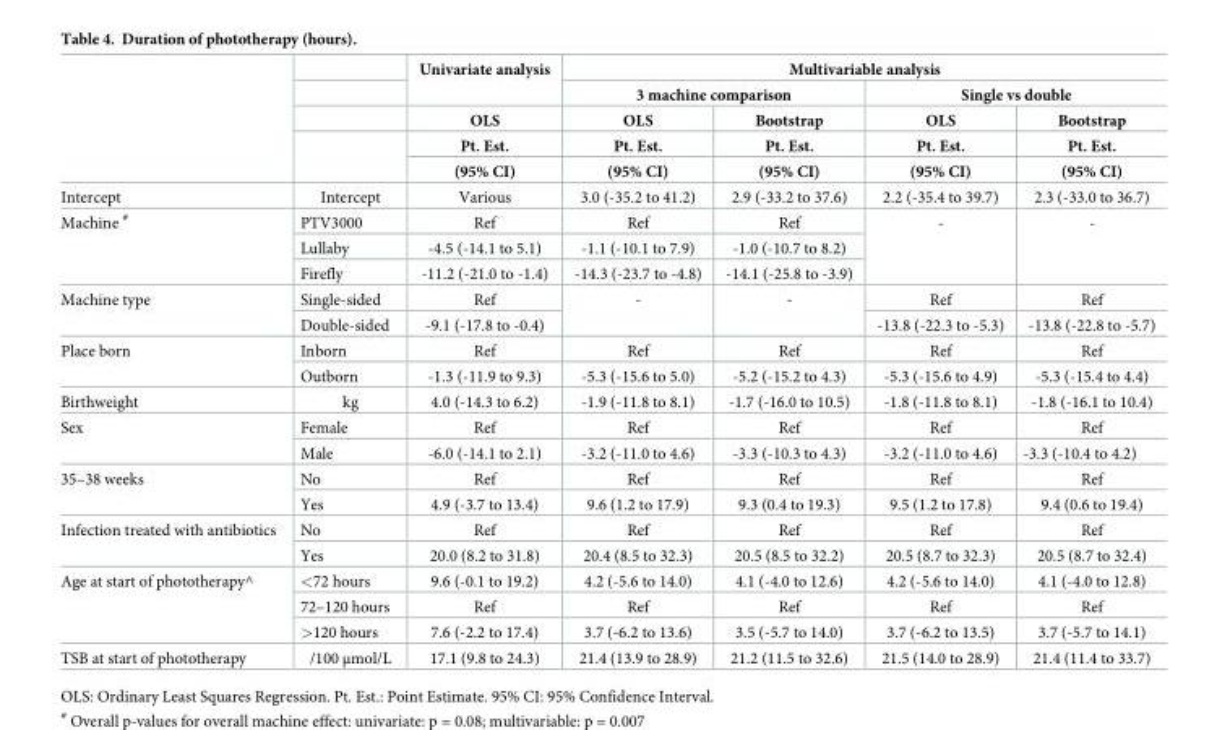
<table><thead><tr><td rowspan="5"></td><td rowspan="5"></td><td rowspan="5">Univariate analysis OLS Pt. Est. (95% CI)</td><td colspan="4">Multivariable analysis</td></tr><tr><td colspan="2">3 machine comparison</td><td colspan="2">Single vs double</td></tr><tr><td rowspan="3">OLS Pt. Est. (95% CI)</td><td rowspan="3">Bootstrap Pt. Est. (95% CI)</td><td rowspan="3">OLS Pt. Est. (95% CI)</td><td rowspan="3">Bootstrap Pt. Est. (95% CI)</td></tr><tr></tr><tr></tr></thead><tbody><tr><td>Intercept</td><td>Intercept</td><td>Various</td><td>3.0 (-35.2 to 41.2)</td><td>2.9 (-33.2 to 37.6)</td><td>2.2 (-35.4 to 39.7)</td><td>2.3 (-33.0 to 36.7)</td></tr><tr><td rowspan="3">Machine <sup>#</sup></td><td>PTV3000</td><td>Ref</td><td>Ref</td><td>Ref</td><td rowspan="3">-</td><td rowspan="3">-</td></tr><tr><td>Lullaby</td><td>-4.5 (-14.1 to 5.1)</td><td>-1.1 (-10.1 to 7.9)</td><td>-1.0 (-10.7 to 8.2)</td></tr><tr><td>Firefly</td><td>-11.2 (-21.0 to -1.4)</td><td>-14.3 (-23.7 to -4.8)</td><td>-14.1 (-25.8 to -3.9)</td></tr><tr><td rowspan="2">Machine type</td><td>Single-sided</td><td>Ref</td><td rowspan="2">-</td><td rowspan="2">-</td><td>Ref</td><td>Ref</td></tr><tr><td>Double-sided</td><td>-9.1 (-17.8 to -0.4)</td><td>-13.8 (-22.3 to -5.3)</td><td>-13.8 (-22.8 to -5.7)</td></tr><tr><td rowspan="2">Place born</td><td>Inborn</td><td>Ref</td><td>Ref</td><td>Ref</td><td>Ref</td><td>Ref</td></tr><tr><td>Outborn</td><td>-1.3 (-11.9 to 9.3)</td><td>-5.3 (-15.6 to 5.0)</td><td>-5.2 (-15.2 to 4.3)</td><td>-5.3 (-15.6 to 4.9)</td><td>-5.3 (-15.4 to 4.4)</td></tr><tr><td>Birthweight</td><td>kg</td><td>4.0 (-14.3 to 6.2)</td><td>-1.9 (-11.8 to 8.1)</td><td>-1.7 (-16.0 to 10.5)</td><td>-1.8 (-11.8 to 8.1)</td><td>-1.8 (-16.1 to 10.4)</td></tr><tr><td rowspan="2">Sex</td><td>Female</td><td>Ref</td><td>Ref</td><td>Ref</td><td>Ref</td><td>Ref</td></tr><tr><td>Male</td><td>-6.0 (-14.1 to 2.1)</td><td>-3.2 (-11.0 to 4.6)</td><td>-3.3 (-10.3 to 4.3)</td><td>-3.2 (-11.0 to 4.6)</td><td>-3.3 (-10.4 to 4.2)</td></tr><tr><td rowspan="2">35–38 weeks</td><td>No</td><td>Ref</td><td>Ref</td><td>Ref</td><td>Ref</td><td>Ref</td></tr><tr><td>Yes</td><td>4.9 (-3.7 to 13.4)</td><td>9.6 (1.2 to 17.9)</td><td>9.3 (0.4 to 19.3)</td><td>9.5 (1.2 to 17.8)</td><td>9.4 (0.6 to 19.4)</td></tr><tr><td rowspan="2">Infection treated with antibiotics</td><td>No</td><td>Ref</td><td>Ref</td><td>Ref</td><td>Ref</td><td>Ref</td></tr><tr><td>Yes</td><td>20.0 (8.2 to 31.8)</td><td>20.4 (8.5 to 32.3)</td><td>20.5 (8.5 to 32.2)</td><td>20.5 (8.7 to 32.3)</td><td>20.5 (8.7 to 32.4)</td></tr><tr><td rowspan="3">Age at start of phototherapy^</td><td>&lt;72 hours</td><td>9.6 (-0.1 to 19.2)</td><td>4.2 (-5.6 to 14.0)</td><td>4.1 (-4.0 to 12.6)</td><td>4.2 (-5.6 to 14.0)</td><td>4.1 (-4.0 to 12.8)</td></tr><tr><td>72–120 hours</td><td>Ref</td><td>Ref</td><td>Ref</td><td>Ref</td><td>Ref</td></tr><tr><td>&gt;120 hours</td><td>7.6 (-2.2 to 17.4)</td><td>3.7 (-6.2 to 13.6)</td><td>3.5 (-5.7 to 14.0)</td><td>3.7 (-6.2 to 13.5)</td><td>3.7 (-5.7 to 14.1)</td></tr><tr><td>TSB at start of phototherapy</td><td>/100 μmol/L</td><td>17.1 (9.8 to 24.3)</td><td>21.4 (13.9 to 28.9)</td><td>21.2 (11.5 to 32.6)</td><td>21.5 (14.0 to 28.9)</td><td>21.4 (11.4 to 33.7)</td></tr></tbody></table>